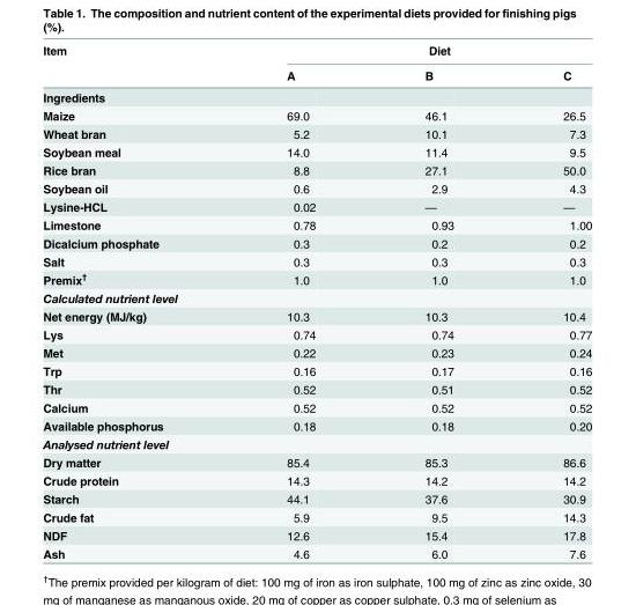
<table><thead><tr><td rowspan="2">Item</td><td colspan="3">Diet</td></tr><tr><td>A</td><td>B</td><td>C</td></tr></thead><tbody><tr><td colspan="4">Ingredients</td></tr><tr><td>Maize</td><td>69.0</td><td>46.1</td><td>26.5</td></tr><tr><td>Wheat bran</td><td>5.2</td><td>10.1</td><td>7.3</td></tr><tr><td>Soybean meal</td><td>14.0</td><td>11.4</td><td>9.5</td></tr><tr><td>Rice bran</td><td>8.8</td><td>27.1</td><td>50.0</td></tr><tr><td>Soybean oil</td><td>0.6</td><td>2.9</td><td>4.3</td></tr><tr><td>Lysine-HCL</td><td>0.02</td><td>—</td><td>—</td></tr><tr><td>Limestone</td><td>0.78</td><td>0.93</td><td>1.00</td></tr><tr><td>Dicalcium phosphate</td><td>0.3</td><td>0.2</td><td>0.2</td></tr><tr><td>Salt</td><td>0.3</td><td>0.3</td><td>0.3</td></tr><tr><td>Premix<sup>†</sup></td><td>1.0</td><td>1.0</td><td>1.0</td></tr><tr><td colspan="4">Calculated nutrient level</td></tr><tr><td>Net energy (MJ/kg)</td><td>10.3</td><td>10.3</td><td>10.4</td></tr><tr><td>Lys</td><td>0.74</td><td>0.74</td><td>0.77</td></tr><tr><td>Met</td><td>0.22</td><td>0.23</td><td>0.24</td></tr><tr><td>Trp</td><td>0.16</td><td>0.17</td><td>0.16</td></tr><tr><td>Thr</td><td>0.52</td><td>0.51</td><td>0.52</td></tr><tr><td>Calcium</td><td>0.52</td><td>0.52</td><td>0.52</td></tr><tr><td>Available phosphorus</td><td>0.18</td><td>0.18</td><td>0.20</td></tr><tr><td colspan="4">Analysed nutrient level</td></tr><tr><td>Dry matter</td><td>85.4</td><td>85.3</td><td>86.6</td></tr><tr><td>Crude protein</td><td>14.3</td><td>14.2</td><td>14.2</td></tr><tr><td>Starch</td><td>44.1</td><td>37.6</td><td>30.9</td></tr><tr><td>Crude fat</td><td>5.9</td><td>9.5</td><td>14.3</td></tr><tr><td>NDF</td><td>12.6</td><td>15.4</td><td>17.8</td></tr><tr><td>Ash</td><td>4.6</td><td>6.0</td><td>7.6</td></tr></tbody></table>